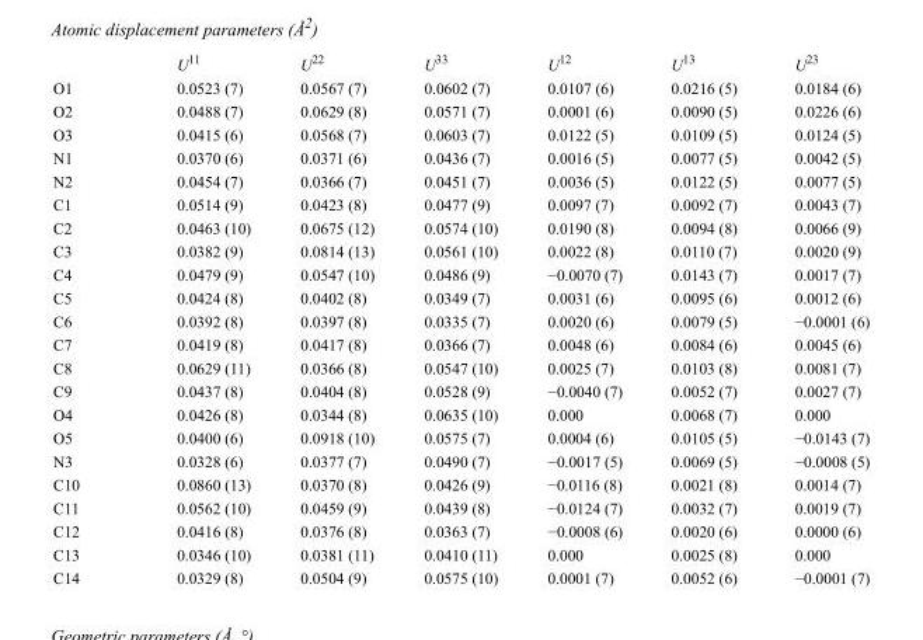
<table><thead><tr><td></td><td>U<sup>11</sup></td><td>U<sup>22</sup></td><td>U<sup>33</sup></td><td>U<sup>12</sup></td><td>U<sup>13</sup></td><td>U<sup>23</sup></td></tr></thead><tbody><tr><td>O1</td><td>0.0523 (7)</td><td>0.0567 (7)</td><td>0.0602 (7)</td><td>0.0107 (6)</td><td>0.0216 (5)</td><td>0.0184 (6)</td></tr><tr><td>O2</td><td>0.0488 (7)</td><td>0.0629 (8)</td><td>0.0571 (7)</td><td>0.0001 (6)</td><td>0.0090 (5)</td><td>0.0226 (6)</td></tr><tr><td>O3</td><td>0.0415 (6)</td><td>0.0568 (7)</td><td>0.0603 (7)</td><td>0.0122 (5)</td><td>0.0109 (5)</td><td>0.0124 (5)</td></tr><tr><td>N1</td><td>0.0370 (6)</td><td>0.0371 (6)</td><td>0.0436 (7)</td><td>0.0016 (5)</td><td>0.0077 (5)</td><td>0.0042 (5)</td></tr><tr><td>N2</td><td>0.0454 (7)</td><td>0.0366 (7)</td><td>0.0451 (7)</td><td>0.0036 (5)</td><td>0.0122 (5)</td><td>0.0077 (5)</td></tr><tr><td>C1</td><td>0.0514 (9)</td><td>0.0423 (8)</td><td>0.0477 (9)</td><td>0.0097 (7)</td><td>0.0092 (7)</td><td>0.0043 (7)</td></tr><tr><td>C2</td><td>0.0463 (10)</td><td>0.0675 (12)</td><td>0.0574 (10)</td><td>0.0190 (8)</td><td>0.0094 (8)</td><td>0.0066 (9)</td></tr><tr><td>C3</td><td>0.0382 (9)</td><td>0.0814 (13)</td><td>0.0561 (10)</td><td>0.0022 (8)</td><td>0.0110 (7)</td><td>0.0020 (9)</td></tr><tr><td>C4</td><td>0.0479 (9)</td><td>0.0547 (10)</td><td>0.0486 (9)</td><td>−0.0070 (7)</td><td>0.0143 (7)</td><td>0.0017 (7)</td></tr><tr><td>C5</td><td>0.0424 (8)</td><td>0.0402 (8)</td><td>0.0349 (7)</td><td>0.0031 (6)</td><td>0.0095 (6)</td><td>0.0012 (6)</td></tr><tr><td>C6</td><td>0.0392 (8)</td><td>0.0397 (8)</td><td>0.0335 (7)</td><td>0.0020 (6)</td><td>0.0079 (5)</td><td>−0.0001 (6)</td></tr><tr><td>C7</td><td>0.0419 (8)</td><td>0.0417 (8)</td><td>0.0366 (7)</td><td>0.0048 (6)</td><td>0.0084 (6)</td><td>0.0045 (6)</td></tr><tr><td>C8</td><td>0.0629 (11)</td><td>0.0366 (8)</td><td>0.0547 (10)</td><td>0.0025 (7)</td><td>0.0103 (8)</td><td>0.0081 (7)</td></tr><tr><td>C9</td><td>0.0437 (8)</td><td>0.0404 (8)</td><td>0.0528 (9)</td><td>−0.0040 (7)</td><td>0.0052 (7)</td><td>0.0027 (7)</td></tr><tr><td>O4</td><td>0.0426 (8)</td><td>0.0344 (8)</td><td>0.0635 (10)</td><td>0.000</td><td>0.0068 (7)</td><td>0.000</td></tr><tr><td>O5</td><td>0.0400 (6)</td><td>0.0918 (10)</td><td>0.0575 (7)</td><td>0.0004 (6)</td><td>0.0105 (5)</td><td>−0.0143 (7)</td></tr><tr><td>N3</td><td>0.0328 (6)</td><td>0.0377 (7)</td><td>0.0490 (7)</td><td>−0.0017 (5)</td><td>0.0069 (5)</td><td>−0.0008 (5)</td></tr><tr><td>C10</td><td>0.0860 (13)</td><td>0.0370 (8)</td><td>0.0426 (9)</td><td>−0.0116 (8)</td><td>0.0021 (8)</td><td>0.0014 (7)</td></tr><tr><td>C11</td><td>0.0562 (10)</td><td>0.0459 (9)</td><td>0.0439 (8)</td><td>−0.0124 (7)</td><td>0.0032 (7)</td><td>0.0019 (7)</td></tr><tr><td>C12</td><td>0.0416 (8)</td><td>0.0376 (8)</td><td>0.0363 (7)</td><td>−0.0008 (6)</td><td>0.0020 (6)</td><td>0.0000 (6)</td></tr><tr><td>C13</td><td>0.0346 (10)</td><td>0.0381 (11)</td><td>0.0410 (11)</td><td>0.000</td><td>0.0025 (8)</td><td>0.000</td></tr><tr><td>C14</td><td>0.0329 (8)</td><td>0.0504 (9)</td><td>0.0575 (10)</td><td>0.0001 (7)</td><td>0.0052 (6)</td><td>−0.0001 (7)</td></tr></tbody></table>